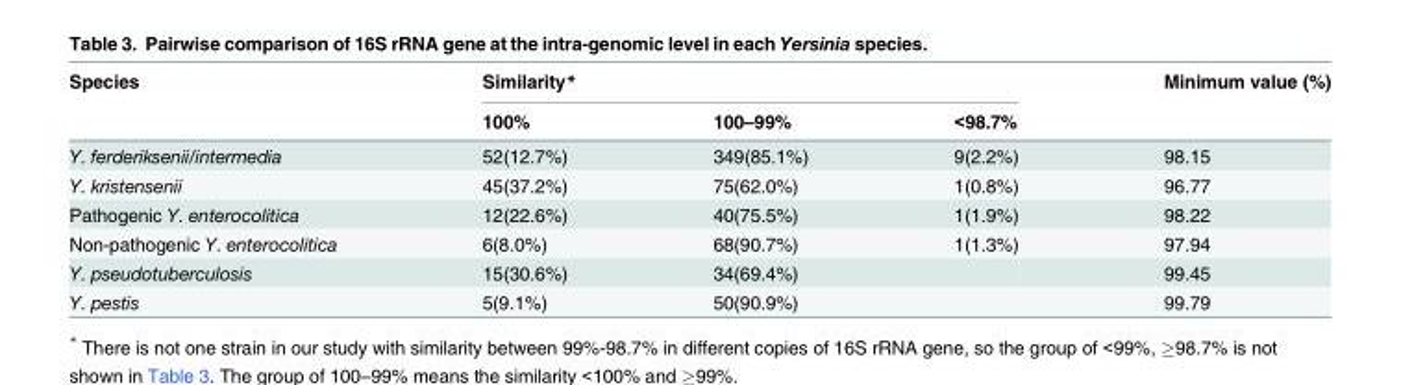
<table><thead><tr><td rowspan="2">Species</td><td colspan="3">Similarity*</td><td rowspan="2">Minimum value (%)</td></tr><tr><td>100%</td><td>100–99%</td><td>&lt;98.7%</td></tr></thead><tbody><tr><td>Y. ferderiksenii/intermedia</td><td>52(12.7%)</td><td>349(85.1%)</td><td>9(2.2%)</td><td>98.15</td></tr><tr><td>Y. kristensenii</td><td>45(37.2%)</td><td>75(62.0%)</td><td>1(0.8%)</td><td>96.77</td></tr><tr><td>Pathogenic Y. enterocolitica</td><td>12(22.6%)</td><td>40(75.5%)</td><td>1(1.9%)</td><td>98.22</td></tr><tr><td>Non-pathogenic Y. enterocolitica</td><td>6(8.0%)</td><td>68(90.7%)</td><td>1(1.3%)</td><td>97.94</td></tr><tr><td>Y. pseudotuberculosis</td><td>15(30.6%)</td><td>34(69.4%)</td><td></td><td>99.45</td></tr><tr><td>Y. pestis</td><td>5(9.1%)</td><td>50(90.9%)</td><td></td><td>99.79</td></tr></tbody></table>